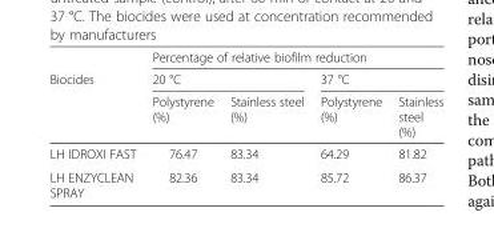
<table><thead><tr><td rowspan="3">Biocides</td><td colspan="4">Percentage of relative biofilm reduction</td></tr><tr><td colspan="2">20 °C</td><td colspan="2">37 °C</td></tr><tr><td>Polystyrene (%)</td><td>Stainless steel (%)</td><td>Polystyrene (%)</td><td>Stainless steel (%)</td></tr></thead><tbody><tr><td>LH IDROXI FAST</td><td>76.47</td><td>83.34</td><td>64.29</td><td>81.82</td></tr><tr><td>LH ENZYCLEAN SPRAY</td><td>82.36</td><td>83.34</td><td>85.72</td><td>86.37</td></tr></tbody></table>